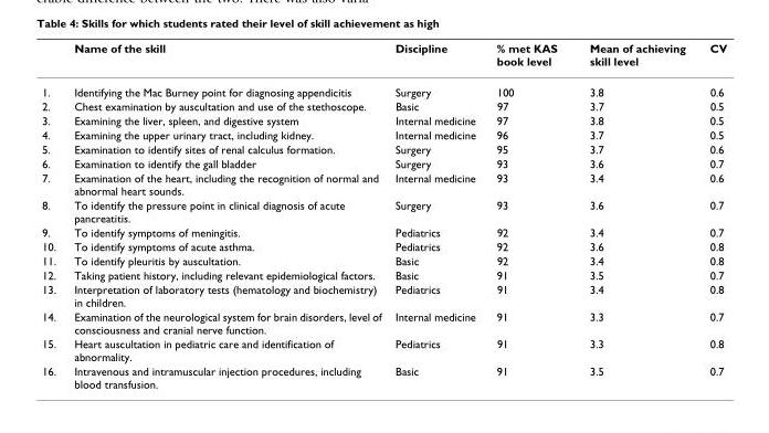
<table><thead><tr><td></td><td>Name of the skill</td><td>Discipline</td><td>% met KAS book level</td><td>Mean of achieving skill level</td><td>CV</td></tr></thead><tbody><tr><td>1.</td><td>Identifying the Mac Burney point for diagnosing appendicitis</td><td>Surgery</td><td>100</td><td>3.8</td><td>0.6</td></tr><tr><td>2.</td><td>Chest examination by auscultation and use of the stethoscope.</td><td>Basic</td><td>97</td><td>3.7</td><td>0.5</td></tr><tr><td>3.</td><td>Examining the liver, spleen, and digestive system</td><td>Internal medicine</td><td>97</td><td>3.8</td><td>0.5</td></tr><tr><td>4.</td><td>Examining the upper urinary tract, including kidney.</td><td>Internal medicine</td><td>96</td><td>3.7</td><td>0.5</td></tr><tr><td>5.</td><td>Examination to identify sites of renal calculus formation.</td><td>Surgery</td><td>95</td><td>3.7</td><td>0.6</td></tr><tr><td>6.</td><td>Examination to identify the gall bladder</td><td>Surgery</td><td>93</td><td>3.6</td><td>0.7</td></tr><tr><td>7.</td><td>Examination of the heart, including the recognition of normal and abnormal heart sounds.</td><td>Internal medicine</td><td>93</td><td>3.4</td><td>0.6</td></tr><tr><td>8.</td><td>To identify the pressure point in clinical diagnosis of acute pancreatitis.</td><td>Surgery</td><td>93</td><td>3.6</td><td>0.7</td></tr><tr><td>9.</td><td>To identify symptoms of meningitis.</td><td>Pediatrics</td><td>92</td><td>3.4</td><td>0.7</td></tr><tr><td>10.</td><td>To identify symptoms of acute asthma.</td><td>Pediatrics</td><td>92</td><td>3.6</td><td>0.8</td></tr><tr><td>11.</td><td>To identify pleuritis by auscultation.</td><td>Basic</td><td>92</td><td>3.4</td><td>0.8</td></tr><tr><td>12.</td><td>Taking patient history, including relevant epidemiological factors.</td><td>Basic</td><td>91</td><td>3.5</td><td>0.7</td></tr><tr><td>13.</td><td>Interpretation of laboratory tests (hematology and biochemistry) in children.</td><td>Pediatrics</td><td>91</td><td>3.4</td><td>0.8</td></tr><tr><td>14.</td><td>Examination of the neurological system for brain disorders, level of consciousness and cranial nerve function.</td><td>Internal medicine</td><td>91</td><td>3.3</td><td>0.7</td></tr><tr><td>15.</td><td>Heart auscultation in pediatric care and identification of abnormality.</td><td>Pediatrics</td><td>91</td><td>3.3</td><td>0.8</td></tr><tr><td>16.</td><td>Intravenous and intramuscular injection procedures, including blood transfusion.</td><td>Basic</td><td>91</td><td>3.5</td><td>0.7</td></tr></tbody></table>